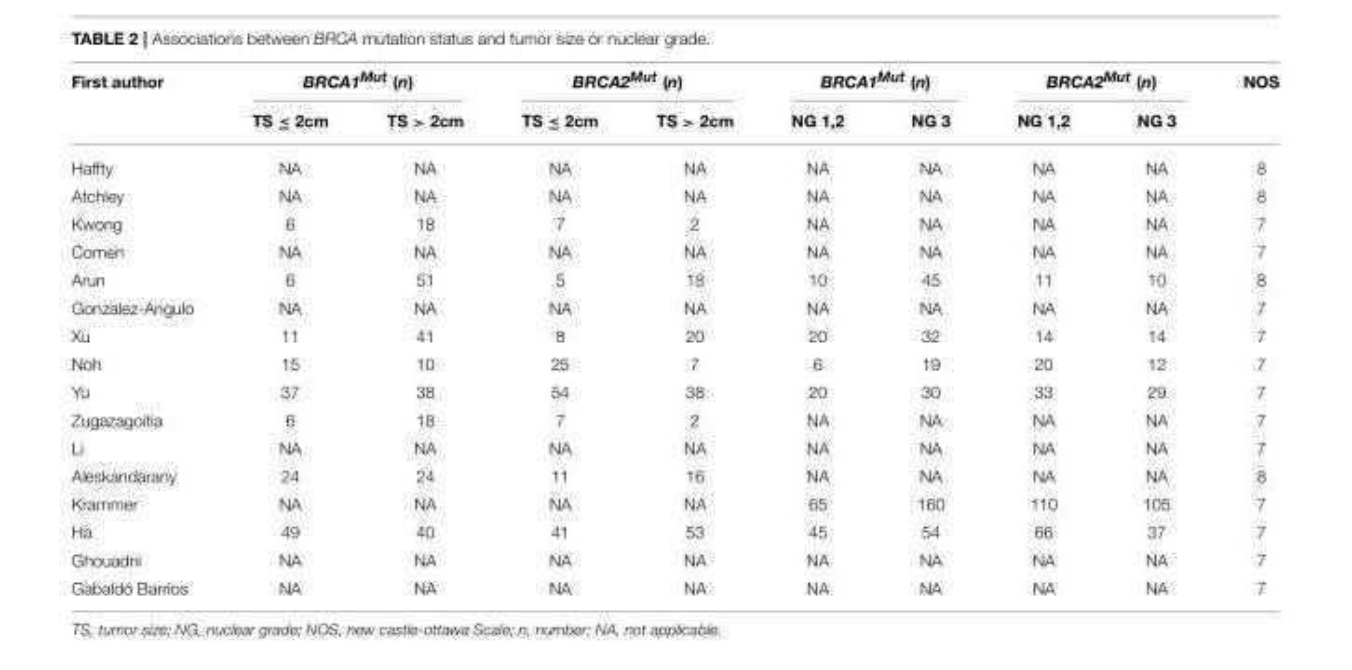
<table><thead><tr><td rowspan="2">First author</td><td colspan="2">BRCA1Mut (n)</td><td colspan="2">BRCA2Mut (n)</td><td colspan="2">BRCA1Mut (n)</td><td colspan="2">BRCA2Mut (n)</td><td rowspan="2">NOS</td></tr><tr><td>TS ≤ 2cm</td><td>TS &gt; 2cm</td><td>TS ≤ 2cm</td><td>TS &gt; 2cm</td><td>NG 1,2</td><td>NG 3</td><td>NG 1,2</td><td>NG 3</td></tr></thead><tbody><tr><td>Haffty</td><td>NA</td><td>NA</td><td>NA</td><td>NA</td><td>NA</td><td>NA</td><td>NA</td><td>NA</td><td>8</td></tr><tr><td>Atchley</td><td>NA</td><td>NA</td><td>NA</td><td>NA</td><td>NA</td><td>NA</td><td>NA</td><td>NA</td><td>8</td></tr><tr><td>Kwong</td><td>6</td><td>18</td><td>7</td><td>2</td><td>NA</td><td>NA</td><td>NA</td><td>NA</td><td>7</td></tr><tr><td>Comen</td><td>NA</td><td>NA</td><td>NA</td><td>NA</td><td>NA</td><td>NA</td><td>NA</td><td>NA</td><td>7</td></tr><tr><td>Arun</td><td>6</td><td>51</td><td>5</td><td>18</td><td>10</td><td>45</td><td>11</td><td>10</td><td>8</td></tr><tr><td>Gonzalez-Angulo</td><td>NA</td><td>NA</td><td>NA</td><td>NA</td><td>NA</td><td>NA</td><td>NA</td><td>NA</td><td>7</td></tr><tr><td>Xu</td><td>11</td><td>41</td><td>8</td><td>20</td><td>20</td><td>32</td><td>14</td><td>14</td><td>7</td></tr><tr><td>Noh</td><td>15</td><td>10</td><td>25</td><td>7</td><td>6</td><td>19</td><td>20</td><td>12</td><td>7</td></tr><tr><td>Yu</td><td>37</td><td>38</td><td>54</td><td>38</td><td>20</td><td>30</td><td>33</td><td>29</td><td>7</td></tr><tr><td>Zugazagoitia</td><td>6</td><td>18</td><td>7</td><td>2</td><td>NA</td><td>NA</td><td>NA</td><td>NA</td><td>7</td></tr><tr><td>Li</td><td>NA</td><td>NA</td><td>NA</td><td>NA</td><td>NA</td><td>NA</td><td>NA</td><td>NA</td><td>7</td></tr><tr><td>Aleskandarany</td><td>24</td><td>24</td><td>11</td><td>16</td><td>NA</td><td>NA</td><td>NA</td><td>NA</td><td>8</td></tr><tr><td>Krammer</td><td>NA</td><td>NA</td><td>NA</td><td>NA</td><td>65</td><td>160</td><td>110</td><td>105</td><td>7</td></tr><tr><td>Ha</td><td>49</td><td>40</td><td>41</td><td>53</td><td>45</td><td>54</td><td>66</td><td>37</td><td>7</td></tr><tr><td>Ghouadni</td><td>NA</td><td>NA</td><td>NA</td><td>NA</td><td>NA</td><td>NA</td><td>NA</td><td>NA</td><td>7</td></tr><tr><td>Gabaldó Barrios</td><td>NA</td><td>NA</td><td>NA</td><td>NA</td><td>NA</td><td>NA</td><td>NA</td><td>NA</td><td>7</td></tr></tbody></table>